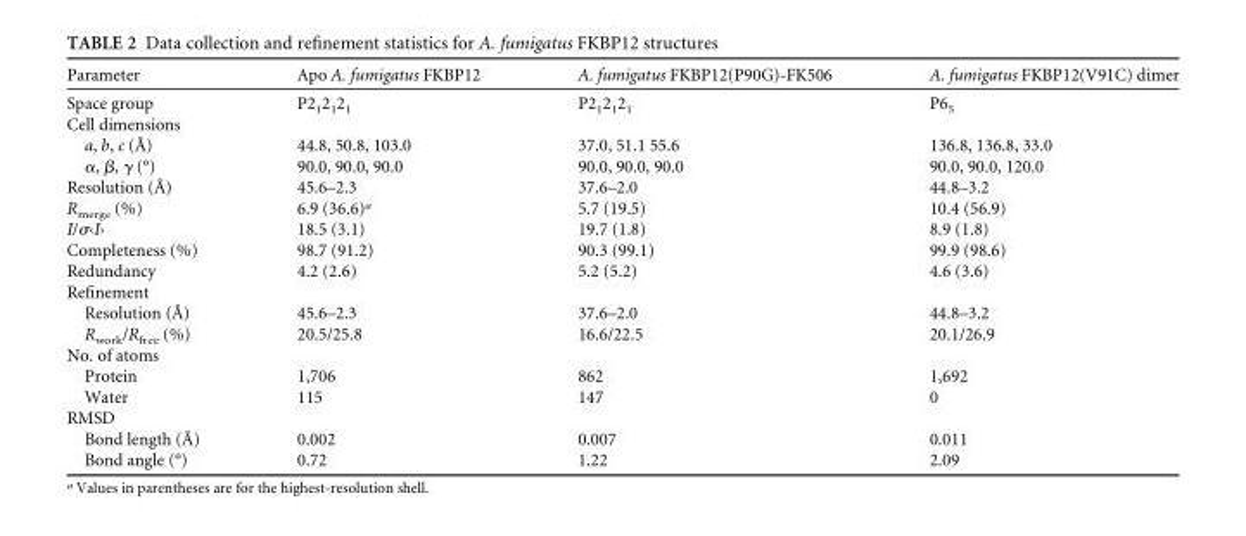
<table><thead><tr><td>Parameter</td><td>Apo A. fumigatus FKBP12</td><td>A. fumigatus FKBP12(P90G)-FK506</td><td>A. fumigatus FKBP12(V91C) dimer</td></tr></thead><tbody><tr><td>Space group</td><td>P2<sub>1</sub>2<sub>1</sub>2<sub>1</sub></td><td>P2<sub>1</sub>2<sub>1</sub>2<sub>1</sub></td><td>P6<sub>5</sub></td></tr><tr><td colspan="4">Cell dimensions</td></tr><tr><td>a, b, c (Å)</td><td>44.8, 50.8, 103.0</td><td>37.0, 51.1 55.6</td><td>136.8, 136.8, 33.0</td></tr><tr><td>α, β, γ (°)</td><td>90.0, 90.0, 90.0</td><td>90.0, 90.0, 90.0</td><td>90.0, 90.0, 120.0</td></tr><tr><td>Resolution (Å)</td><td>45.6–2.3</td><td>37.6–2.0</td><td>44.8–3.2</td></tr><tr><td>R<sub>merge</sub> (%)</td><td>6.9 (36.6)<sup>a</sup></td><td>5.7 (19.5)</td><td>10.4 (56.9)</td></tr><tr><td>I/σ‹I›</td><td>18.5 (3.1)</td><td>19.7 (1.8)</td><td>8.9 (1.8)</td></tr><tr><td>Completeness (%)</td><td>98.7 (91.2)</td><td>90.3 (99.1)</td><td>99.9 (98.6)</td></tr><tr><td>Redundancy</td><td>4.2 (2.6)</td><td>5.2 (5.2)</td><td>4.6 (3.6)</td></tr><tr><td colspan="4">Refinement</td></tr><tr><td>Resolution (Å)</td><td>45.6–2.3</td><td>37.6–2.0</td><td>44.8–3.2</td></tr><tr><td>R<sub>work</sub>/R<sub>free</sub> (%)</td><td>20.5/25.8</td><td>16.6/22.5</td><td>20.1/26.9</td></tr><tr><td colspan="4">No. of atoms</td></tr><tr><td>Protein</td><td>1,706</td><td>862</td><td>1,692</td></tr><tr><td>Water</td><td>115</td><td>147</td><td>0</td></tr><tr><td colspan="4">RMSD</td></tr><tr><td>Bond length (Å)</td><td>0.002</td><td>0.007</td><td>0.011</td></tr><tr><td>Bond angle (°)</td><td>0.72</td><td>1.22</td><td>2.09</td></tr></tbody></table>